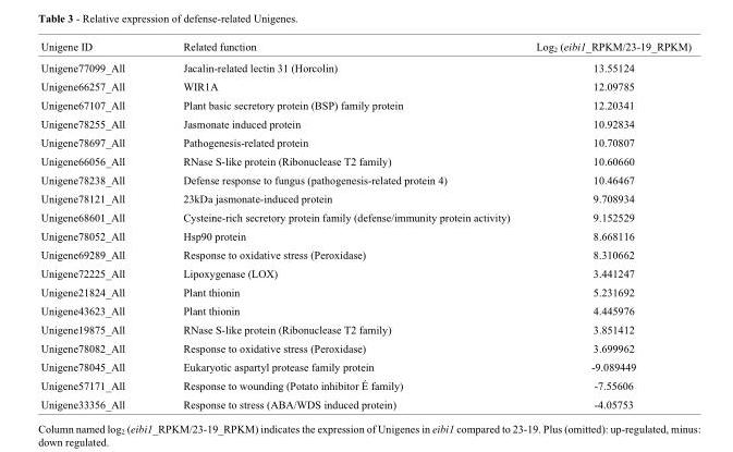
<table><thead><tr><td>Unigene ID</td><td>Related function</td><td>Log<sub>2</sub> (eibi1_RPKM/23-19_RPKM)</td></tr></thead><tbody><tr><td>Unigene77099_All</td><td>Jacalin-related lectin 31 (Horcolin)</td><td>13.55124</td></tr><tr><td>Unigene66257_All</td><td>WIR1A</td><td>12.09785</td></tr><tr><td>Unigene67107_All</td><td>Plant basic secretory protein (BSP) family protein</td><td>12.20341</td></tr><tr><td>Unigene78255_All</td><td>Jasmonate induced protein</td><td>10.92834</td></tr><tr><td>Unigene78697_All</td><td>Pathogenesis-related protein</td><td>10.70807</td></tr><tr><td>Unigene66056_All</td><td>RNase S-like protein (Ribonuclease T2 family)</td><td>10.60660</td></tr><tr><td>Unigene78238_All</td><td>Defense response to fungus (pathogenesis-related protein 4)</td><td>10.46467</td></tr><tr><td>Unigene78121_All</td><td>23kDa jasmonate-induced protein</td><td>9.708934</td></tr><tr><td>Unigene68601_All</td><td>Cysteine-rich secretory protein family (defense/immunity protein activity)</td><td>9.152529</td></tr><tr><td>Unigene78052_All</td><td>Hsp90 protein</td><td>8.668116</td></tr><tr><td>Unigene69289_All</td><td>Response to oxidative stress (Peroxidase)</td><td>8.310662</td></tr><tr><td>Unigene72225_All</td><td>Lipoxygenase (LOX)</td><td>3.441247</td></tr><tr><td>Unigene21824_All</td><td>Plant thionin</td><td>5.231692</td></tr><tr><td>Unigene43623_All</td><td>Plant thionin</td><td>4.445976</td></tr><tr><td>Unigene19875_All</td><td>RNase S-like protein (Ribonuclease T2 family)</td><td>3.851412</td></tr><tr><td>Unigene78082_All</td><td>Response to oxidative stress (Peroxidase)</td><td>3.699962</td></tr><tr><td>Unigene78045_All</td><td>Eukaryotic aspartyl protease family protein</td><td>-9.089449</td></tr><tr><td>Unigene57171_All</td><td>Response to wounding (Potato inhibitor É family)</td><td>-7.55606</td></tr><tr><td>Unigene33356_All</td><td>Response to stress (ABA/WDS induced protein)</td><td>-4.05753</td></tr></tbody></table>